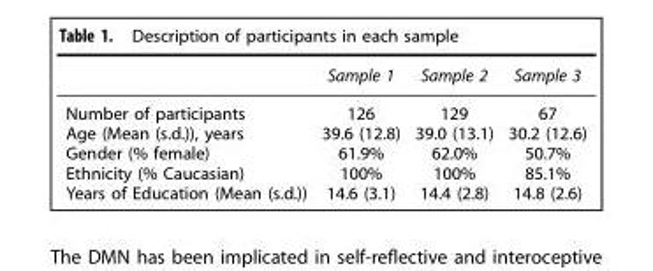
<table><thead><tr><td></td><td>Sample 1</td><td>Sample 2</td><td>Sample 3</td></tr></thead><tbody><tr><td>Number of participants</td><td>126</td><td>129</td><td>67</td></tr><tr><td>Age (Mean (s.d.)), years</td><td>39.6 (12.8)</td><td>39.0 (13.1)</td><td>30.2 (12.6)</td></tr><tr><td>Gender (% female)</td><td>61.9%</td><td>62.0%</td><td>50.7%</td></tr><tr><td>Ethnicity (% Caucasian)</td><td>100%</td><td>100%</td><td>85.1%</td></tr><tr><td>Years of Education (Mean (s.d.))</td><td>14.6 (3.1)</td><td>14.4 (2.8)</td><td>14.8 (2.6)</td></tr></tbody></table>